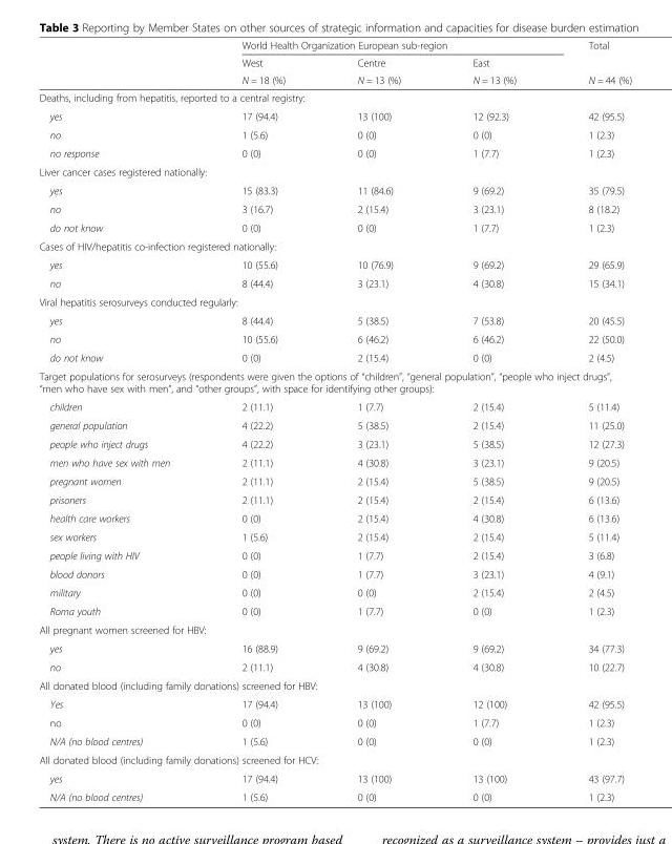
<table><thead><tr><td rowspan="3"></td><td colspan="3">World Health Organization European sub-region</td><td rowspan="3">Total N = 44 (%)</td></tr><tr><td rowspan="2">West N = 18 (%)</td><td rowspan="2">Centre N = 13 (%)</td><td rowspan="2">East N = 13 (%)</td></tr><tr></tr></thead><tbody><tr><td colspan="5">Deaths, including from hepatitis, reported to a central registry:</td></tr><tr><td>yes</td><td>17 (94.4)</td><td>13 (100)</td><td>12 (92.3)</td><td>42 (95.5)</td></tr><tr><td>no</td><td>1 (5.6)</td><td>0 (0)</td><td>0 (0)</td><td>1 (2.3)</td></tr><tr><td>no response</td><td>0 (0)</td><td>0 (0)</td><td>1 (7.7)</td><td>1 (2.3)</td></tr><tr><td colspan="5">Liver cancer cases registered nationally:</td></tr><tr><td>yes</td><td>15 (83.3)</td><td>11 (84.6)</td><td>9 (69.2)</td><td>35 (79.5)</td></tr><tr><td>no</td><td>3 (16.7)</td><td>2 (15.4)</td><td>3 (23.1)</td><td>8 (18.2)</td></tr><tr><td>do not know</td><td>0 (0)</td><td>0 (0)</td><td>1 (7.7)</td><td>1 (2.3)</td></tr><tr><td colspan="5">Cases of HIV/hepatitis co-infection registered nationally:</td></tr><tr><td>yes</td><td>10 (55.6)</td><td>10 (76.9)</td><td>9 (69.2)</td><td>29 (65.9)</td></tr><tr><td>no</td><td>8 (44.4)</td><td>3 (23.1)</td><td>4 (30.8)</td><td>15 (34.1)</td></tr><tr><td colspan="5">Viral hepatitis serosurveys conducted regularly:</td></tr><tr><td>yes</td><td>8 (44.4)</td><td>5 (38.5)</td><td>7 (53.8)</td><td>20 (45.5)</td></tr><tr><td>no</td><td>10 (55.6)</td><td>6 (46.2)</td><td>6 (46.2)</td><td>22 (50.0)</td></tr><tr><td>do not know</td><td>0 (0)</td><td>2 (15.4)</td><td>0 (0)</td><td>2 (4.5)</td></tr><tr><td colspan="5">Target populations for serosurveys (respondents were given the options of “children”, “general population”, “people who inject drugs”, “men who have sex with men”, and “other groups”, with space for identifying other groups):</td></tr><tr><td>children</td><td>2 (11.1)</td><td>1 (7.7)</td><td>2 (15.4)</td><td>5 (11.4)</td></tr><tr><td>general population</td><td>4 (22.2)</td><td>5 (38.5)</td><td>2 (15.4)</td><td>11 (25.0)</td></tr><tr><td>people who inject drugs</td><td>4 (22.2)</td><td>3 (23.1)</td><td>5 (38.5)</td><td>12 (27.3)</td></tr><tr><td>men who have sex with men</td><td>2 (11.1)</td><td>4 (30.8)</td><td>3 (23.1)</td><td>9 (20.5)</td></tr><tr><td>pregnant women</td><td>2 (11.1)</td><td>2 (15.4)</td><td>5 (38.5)</td><td>9 (20.5)</td></tr><tr><td>prisoners</td><td>2 (11.1)</td><td>2 (15.4)</td><td>2 (15.4)</td><td>6 (13.6)</td></tr><tr><td>health care workers</td><td>0 (0)</td><td>2 (15.4)</td><td>4 (30.8)</td><td>6 (13.6)</td></tr><tr><td>sex workers</td><td>1 (5.6)</td><td>2 (15.4)</td><td>2 (15.4)</td><td>5 (11.4)</td></tr><tr><td>people living with HIV</td><td>0 (0)</td><td>1 (7.7)</td><td>2 (15.4)</td><td>3 (6.8)</td></tr><tr><td>blood donors</td><td>0 (0)</td><td>1 (7.7)</td><td>3 (23.1)</td><td>4 (9.1)</td></tr><tr><td>military</td><td>0 (0)</td><td>0 (0)</td><td>2 (15.4)</td><td>2 (4.5)</td></tr><tr><td>Roma youth</td><td>0 (0)</td><td>1 (7.7)</td><td>0 (0)</td><td>1 (2.3)</td></tr><tr><td colspan="5">All pregnant women screened for HBV:</td></tr><tr><td>yes</td><td>16 (88.9)</td><td>9 (69.2)</td><td>9 (69.2)</td><td>34 (77.3)</td></tr><tr><td>no</td><td>2 (11.1)</td><td>4 (30.8)</td><td>4 (30.8)</td><td>10 (22.7)</td></tr><tr><td colspan="5">All donated blood (including family donations) screened for HBV:</td></tr><tr><td>Yes</td><td>17 (94.4)</td><td>13 (100)</td><td>12 (100)</td><td>42 (95.5)</td></tr><tr><td>no</td><td>0 (0)</td><td>0 (0)</td><td>1 (7.7)</td><td>1 (2.3)</td></tr><tr><td>N/A (no blood centres)</td><td>1 (5.6)</td><td>0 (0)</td><td>0 (0)</td><td>1 (2.3)</td></tr><tr><td colspan="5">All donated blood (including family donations) screened for HCV:</td></tr><tr><td>yes</td><td>17 (94.4)</td><td>13 (100)</td><td>13 (100)</td><td>43 (97.7)</td></tr><tr><td>N/A (no blood centres)</td><td>1 (5.6)</td><td>0 (0)</td><td>0 (0)</td><td>1 (2.3)</td></tr></tbody></table>